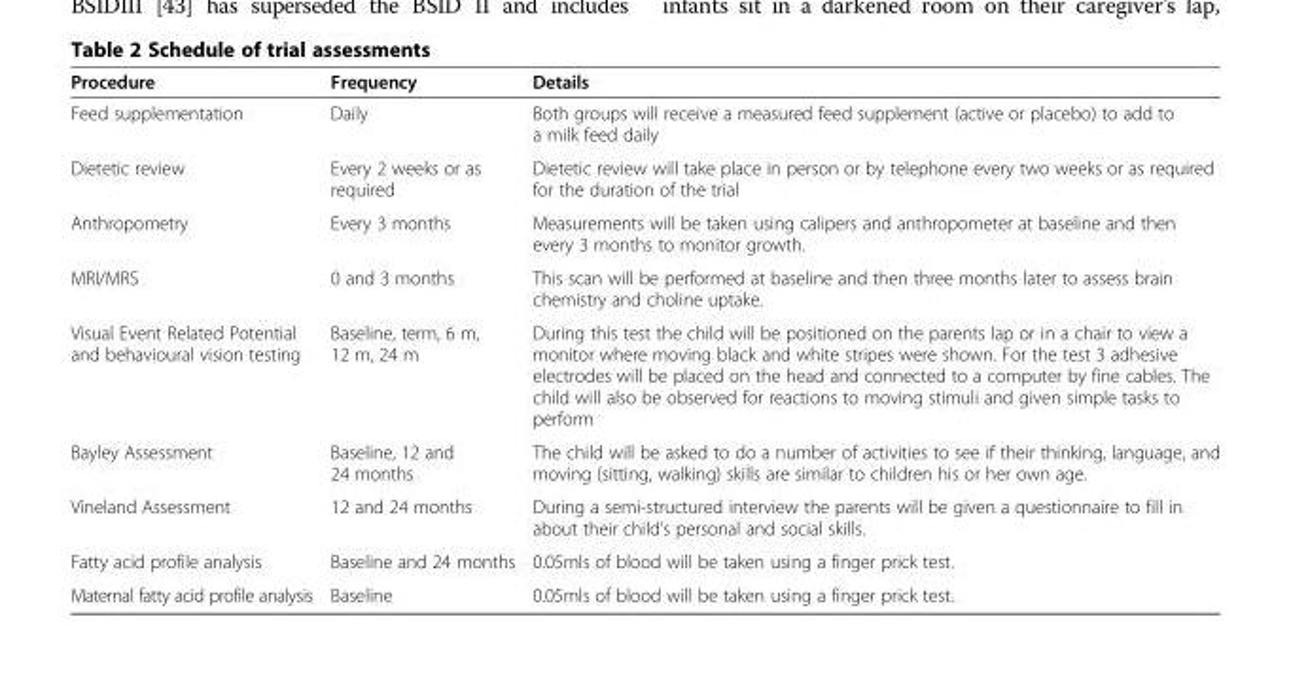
<table><thead><tr><td>Procedure</td><td>Frequency</td><td>Details</td></tr></thead><tbody><tr><td>Feed supplementation</td><td>Daily</td><td>Both groups will receive a measured feed supplement (active or placebo) to add to a milk feed daily</td></tr><tr><td>Dietetic review</td><td>Every 2 weeks or as required</td><td>Dietetic review will take place in person or by telephone every two weeks or as required for the duration of the trial</td></tr><tr><td>Anthropometry</td><td>Every 3 months</td><td>Measurements will be taken using calipers and anthropometer at baseline and then every 3 months to monitor growth.</td></tr><tr><td>MRI/MRS</td><td>0 and 3 months</td><td>This scan will be performed at baseline and then three months later to assess brain chemistry and choline uptake.</td></tr><tr><td>Visual Event Related Potential and behavioural vision testing</td><td>Baseline, term, 6 m, 12 m, 24 m</td><td>During this test the child will be positioned on the parents lap or in a chair to view a monitor where moving black and white stripes were shown. For the test 3 adhesive electrodes will be placed on the head and connected to a computer by fine cables. The child will also be observed for reactions to moving stimuli and given simple tasks to perform</td></tr><tr><td>Bayley Assessment</td><td>Baseline, 12 and 24 months</td><td>The child will be asked to do a number of activities to see if their thinking, language, and moving (sitting, walking) skills are similar to children his or her own age.</td></tr><tr><td>Vineland Assessment</td><td>12 and 24 months</td><td>During a semi-structured interview the parents will be given a questionnaire to fill in about their child’s personal and social skills.</td></tr><tr><td>Fatty acid profile analysis</td><td>Baseline and 24 months</td><td>0.05mls of blood will be taken using a finger prick test.</td></tr><tr><td>Maternal fatty acid profile analysis</td><td>Baseline</td><td>0.05mls of blood will be taken using a finger prick test.</td></tr></tbody></table>